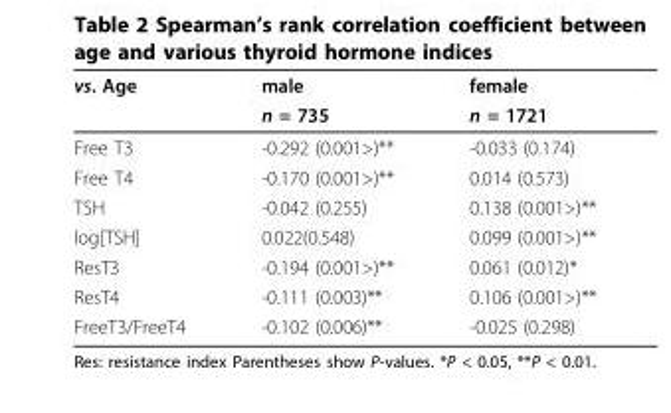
<table><thead><tr><td rowspan="2">vs. Age</td><td rowspan="2">male n = 735</td><td rowspan="2">female n = 1721</td></tr><tr></tr></thead><tbody><tr><td>Free T3</td><td>-0.292 (0.001&gt;)**</td><td>-0.033 (0.174)</td></tr><tr><td>Free T4</td><td>-0.170 (0.001&gt;)**</td><td>0.014 (0.573)</td></tr><tr><td>TSH</td><td>-0.042 (0.255)</td><td>0.138 (0.001&gt;)**</td></tr><tr><td>log[TSH]</td><td>0.022(0.548)</td><td>0.099 (0.001&gt;)**</td></tr><tr><td>ResT3</td><td>-0.194 (0.001&gt;)**</td><td>0.061 (0.012)*</td></tr><tr><td>ResT4</td><td>-0.111 (0.003)**</td><td>0.106 (0.001&gt;)**</td></tr><tr><td>FreeT3/FreeT4</td><td>-0.102 (0.006)**</td><td>-0.025 (0.298)</td></tr></tbody></table>